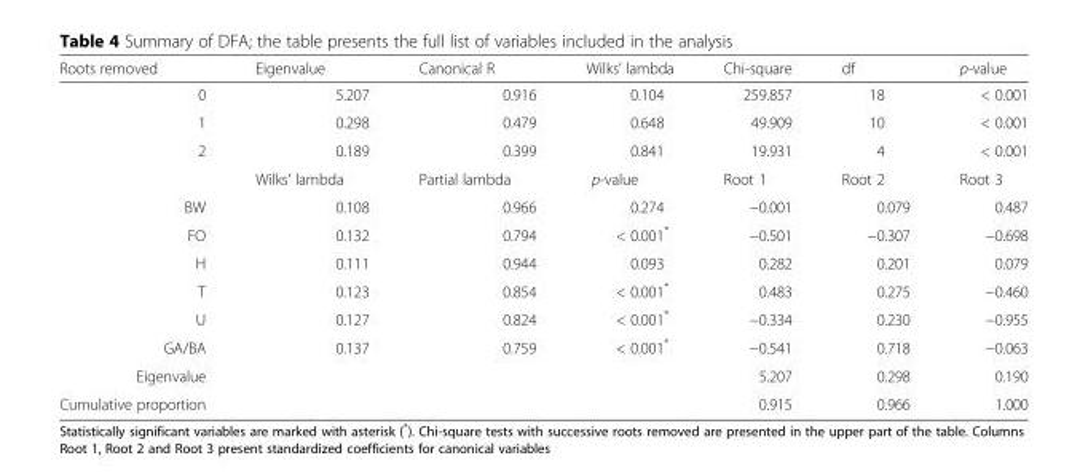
<table><thead><tr><td>Roots removed</td><td>Eigenvalue</td><td>Canonical R</td><td>Wilks’ lambda</td><td>Chi-square</td><td>df</td><td>p-value</td></tr></thead><tbody><tr><td>0</td><td>5.207</td><td>0.916</td><td>0.104</td><td>259.857</td><td>18</td><td>&lt; 0.001</td></tr><tr><td>1</td><td>0.298</td><td>0.479</td><td>0.648</td><td>49.909</td><td>10</td><td>&lt; 0.001</td></tr><tr><td rowspan="2">2</td><td>0.189</td><td>0.399</td><td>0.841</td><td>19.931</td><td>4</td><td>&lt; 0.001</td></tr><tr><td>Wilks’ lambda</td><td>Partial lambda</td><td>p-value</td><td>Root 1</td><td>Root 2</td><td>Root 3</td></tr><tr><td>BW</td><td>0.108</td><td>0.966</td><td>0.274</td><td>−0.001</td><td>0.079</td><td>0.487</td></tr><tr><td>FO</td><td>0.132</td><td>0.794</td><td>&lt; 0.001*</td><td>−0.501</td><td>−0.307</td><td>−0.698</td></tr><tr><td>H</td><td>0.111</td><td>0.944</td><td>0.093</td><td>0.282</td><td>0.201</td><td>0.079</td></tr><tr><td>T</td><td>0.123</td><td>0.854</td><td>&lt; 0.001*</td><td>0.483</td><td>0.275</td><td>−0.460</td></tr><tr><td>U</td><td>0.127</td><td>0.824</td><td>&lt; 0.001*</td><td>−0.334</td><td>0.230</td><td>−0.955</td></tr><tr><td>GA/BA</td><td>0.137</td><td>0.759</td><td>&lt; 0.001*</td><td>−0.541</td><td>0.718</td><td>−0.063</td></tr><tr><td>Eigenvalue</td><td colspan="3"></td><td>5.207</td><td>0.298</td><td>0.190</td></tr><tr><td>Cumulative proportion</td><td colspan="3"></td><td>0.915</td><td>0.966</td><td>1.000</td></tr></tbody></table>